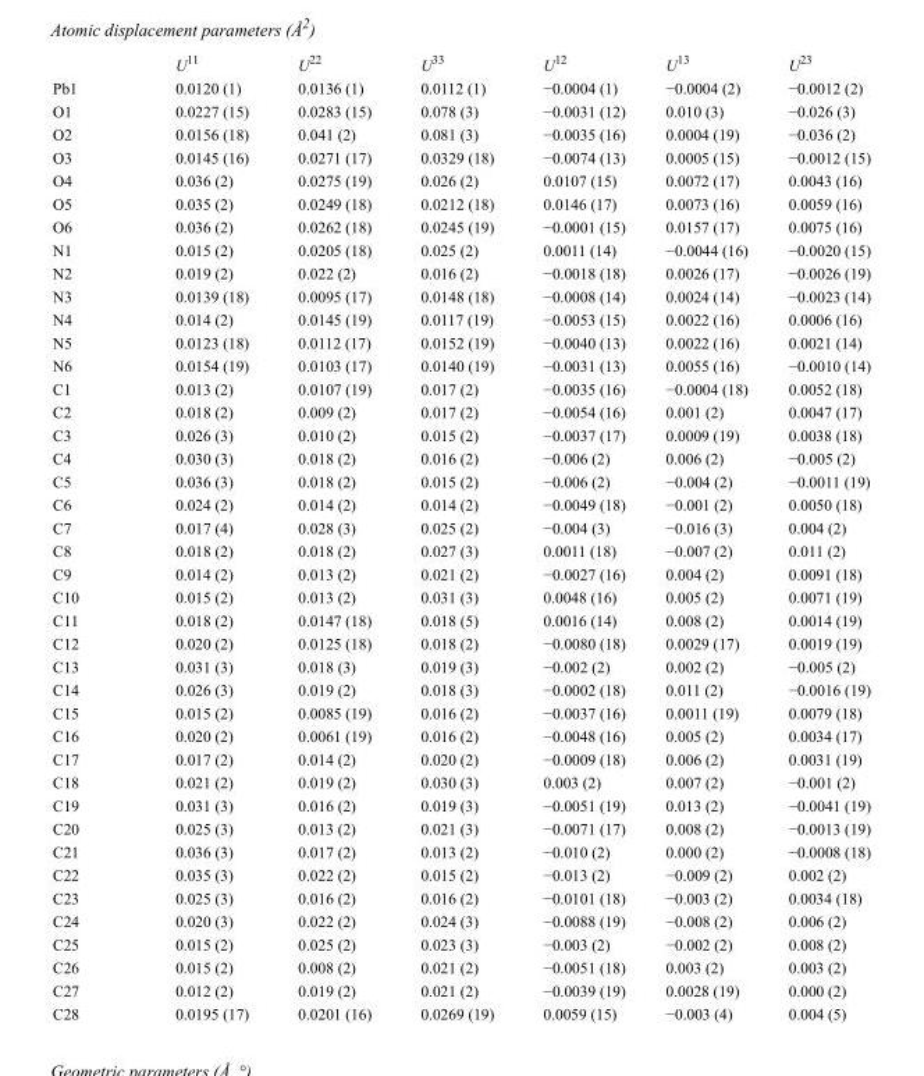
<table><thead><tr><td></td><td>U<sup>11</sup></td><td>U<sup>22</sup></td><td>U<sup>33</sup></td><td>U<sup>12</sup></td><td>U<sup>13</sup></td><td>U<sup>23</sup></td></tr></thead><tbody><tr><td>Pb1</td><td>0.0120 (1)</td><td>0.0136 (1)</td><td>0.0112 (1)</td><td>−0.0004 (1)</td><td>−0.0004 (2)</td><td>−0.0012 (2)</td></tr><tr><td>O1</td><td>0.0227 (15)</td><td>0.0283 (15)</td><td>0.078 (3)</td><td>−0.0031 (12)</td><td>0.010 (3)</td><td>−0.026 (3)</td></tr><tr><td>O2</td><td>0.0156 (18)</td><td>0.041 (2)</td><td>0.081 (3)</td><td>−0.0035 (16)</td><td>0.0004 (19)</td><td>−0.036 (2)</td></tr><tr><td>O3</td><td>0.0145 (16)</td><td>0.0271 (17)</td><td>0.0329 (18)</td><td>−0.0074 (13)</td><td>0.0005 (15)</td><td>−0.0012 (15)</td></tr><tr><td>O4</td><td>0.036 (2)</td><td>0.0275 (19)</td><td>0.026 (2)</td><td>0.0107 (15)</td><td>0.0072 (17)</td><td>0.0043 (16)</td></tr><tr><td>O5</td><td>0.035 (2)</td><td>0.0249 (18)</td><td>0.0212 (18)</td><td>0.0146 (17)</td><td>0.0073 (16)</td><td>0.0059 (16)</td></tr><tr><td>O6</td><td>0.036 (2)</td><td>0.0262 (18)</td><td>0.0245 (19)</td><td>−0.0001 (15)</td><td>0.0157 (17)</td><td>0.0075 (16)</td></tr><tr><td>N1</td><td>0.015 (2)</td><td>0.0205 (18)</td><td>0.025 (2)</td><td>0.0011 (14)</td><td>−0.0044 (16)</td><td>−0.0020 (15)</td></tr><tr><td>N2</td><td>0.019 (2)</td><td>0.022 (2)</td><td>0.016 (2)</td><td>−0.0018 (18)</td><td>0.0026 (17)</td><td>−0.0026 (19)</td></tr><tr><td>N3</td><td>0.0139 (18)</td><td>0.0095 (17)</td><td>0.0148 (18)</td><td>−0.0008 (14)</td><td>0.0024 (14)</td><td>−0.0023 (14)</td></tr><tr><td>N4</td><td>0.014 (2)</td><td>0.0145 (19)</td><td>0.0117 (19)</td><td>−0.0053 (15)</td><td>0.0022 (16)</td><td>0.0006 (16)</td></tr><tr><td>N5</td><td>0.0123 (18)</td><td>0.0112 (17)</td><td>0.0152 (19)</td><td>−0.0040 (13)</td><td>0.0022 (16)</td><td>0.0021 (14)</td></tr><tr><td>N6</td><td>0.0154 (19)</td><td>0.0103 (17)</td><td>0.0140 (19)</td><td>−0.0031 (13)</td><td>0.0055 (16)</td><td>−0.0010 (14)</td></tr><tr><td>C1</td><td>0.013 (2)</td><td>0.0107 (19)</td><td>0.017 (2)</td><td>−0.0035 (16)</td><td>−0.0004 (18)</td><td>0.0052 (18)</td></tr><tr><td>C2</td><td>0.018 (2)</td><td>0.009 (2)</td><td>0.017 (2)</td><td>−0.0054 (16)</td><td>0.001 (2)</td><td>0.0047 (17)</td></tr><tr><td>C3</td><td>0.026 (3)</td><td>0.010 (2)</td><td>0.015 (2)</td><td>−0.0037 (17)</td><td>0.0009 (19)</td><td>0.0038 (18)</td></tr><tr><td>C4</td><td>0.030 (3)</td><td>0.018 (2)</td><td>0.016 (2)</td><td>−0.006 (2)</td><td>0.006 (2)</td><td>−0.005 (2)</td></tr><tr><td>C5</td><td>0.036 (3)</td><td>0.018 (2)</td><td>0.015 (2)</td><td>−0.006 (2)</td><td>−0.004 (2)</td><td>−0.0011 (19)</td></tr><tr><td>C6</td><td>0.024 (2)</td><td>0.014 (2)</td><td>0.014 (2)</td><td>−0.0049 (18)</td><td>−0.001 (2)</td><td>0.0050 (18)</td></tr><tr><td>C7</td><td>0.017 (4)</td><td>0.028 (3)</td><td>0.025 (2)</td><td>−0.004 (3)</td><td>−0.016 (3)</td><td>0.004 (2)</td></tr><tr><td>C8</td><td>0.018 (2)</td><td>0.018 (2)</td><td>0.027 (3)</td><td>0.0011 (18)</td><td>−0.007 (2)</td><td>0.011 (2)</td></tr><tr><td>C9</td><td>0.014 (2)</td><td>0.013 (2)</td><td>0.021 (2)</td><td>−0.0027 (16)</td><td>0.004 (2)</td><td>0.0091 (18)</td></tr><tr><td>C10</td><td>0.015 (2)</td><td>0.013 (2)</td><td>0.031 (3)</td><td>0.0048 (16)</td><td>0.005 (2)</td><td>0.0071 (19)</td></tr><tr><td>C11</td><td>0.018 (2)</td><td>0.0147 (18)</td><td>0.018 (5)</td><td>0.0016 (14)</td><td>0.008 (2)</td><td>0.0014 (19)</td></tr><tr><td>C12</td><td>0.020 (2)</td><td>0.0125 (18)</td><td>0.018 (2)</td><td>−0.0080 (18)</td><td>0.0029 (17)</td><td>0.0019 (19)</td></tr><tr><td>C13</td><td>0.031 (3)</td><td>0.018 (3)</td><td>0.019 (3)</td><td>−0.002 (2)</td><td>0.002 (2)</td><td>−0.005 (2)</td></tr><tr><td>C14</td><td>0.026 (3)</td><td>0.019 (2)</td><td>0.018 (3)</td><td>−0.0002 (18)</td><td>0.011 (2)</td><td>−0.0016 (19)</td></tr><tr><td>C15</td><td>0.015 (2)</td><td>0.0085 (19)</td><td>0.016 (2)</td><td>−0.0037 (16)</td><td>0.0011 (19)</td><td>0.0079 (18)</td></tr><tr><td>C16</td><td>0.020 (2)</td><td>0.0061 (19)</td><td>0.016 (2)</td><td>−0.0048 (16)</td><td>0.005 (2)</td><td>0.0034 (17)</td></tr><tr><td>C17</td><td>0.017 (2)</td><td>0.014 (2)</td><td>0.020 (2)</td><td>−0.0009 (18)</td><td>0.006 (2)</td><td>0.0031 (19)</td></tr><tr><td>C18</td><td>0.021 (2)</td><td>0.019 (2)</td><td>0.030 (3)</td><td>0.003 (2)</td><td>0.007 (2)</td><td>−0.001 (2)</td></tr><tr><td>C19</td><td>0.031 (3)</td><td>0.016 (2)</td><td>0.019 (3)</td><td>−0.0051 (19)</td><td>0.013 (2)</td><td>−0.0041 (19)</td></tr><tr><td>C20</td><td>0.025 (3)</td><td>0.013 (2)</td><td>0.021 (3)</td><td>−0.0071 (17)</td><td>0.008 (2)</td><td>−0.0013 (19)</td></tr><tr><td>C21</td><td>0.036 (3)</td><td>0.017 (2)</td><td>0.013 (2)</td><td>−0.010 (2)</td><td>0.000 (2)</td><td>−0.0008 (18)</td></tr><tr><td>C22</td><td>0.035 (3)</td><td>0.022 (2)</td><td>0.015 (2)</td><td>−0.013 (2)</td><td>−0.009 (2)</td><td>0.002 (2)</td></tr><tr><td>C23</td><td>0.025 (3)</td><td>0.016 (2)</td><td>0.016 (2)</td><td>−0.0101 (18)</td><td>−0.003 (2)</td><td>0.0034 (18)</td></tr><tr><td>C24</td><td>0.020 (3)</td><td>0.022 (2)</td><td>0.024 (3)</td><td>−0.0088 (19)</td><td>−0.008 (2)</td><td>0.006 (2)</td></tr><tr><td>C25</td><td>0.015 (2)</td><td>0.025 (2)</td><td>0.023 (3)</td><td>−0.003 (2)</td><td>−0.002 (2)</td><td>0.008 (2)</td></tr><tr><td>C26</td><td>0.015 (2)</td><td>0.008 (2)</td><td>0.021 (2)</td><td>−0.0051 (18)</td><td>0.003 (2)</td><td>0.003 (2)</td></tr><tr><td>C27</td><td>0.012 (2)</td><td>0.019 (2)</td><td>0.021 (2)</td><td>−0.0039 (19)</td><td>0.0028 (19)</td><td>0.000 (2)</td></tr><tr><td>C28</td><td>0.0195 (17)</td><td>0.0201 (16)</td><td>0.0269 (19)</td><td>0.0059 (15)</td><td>−0.003 (4)</td><td>0.004 (5)</td></tr></tbody></table>